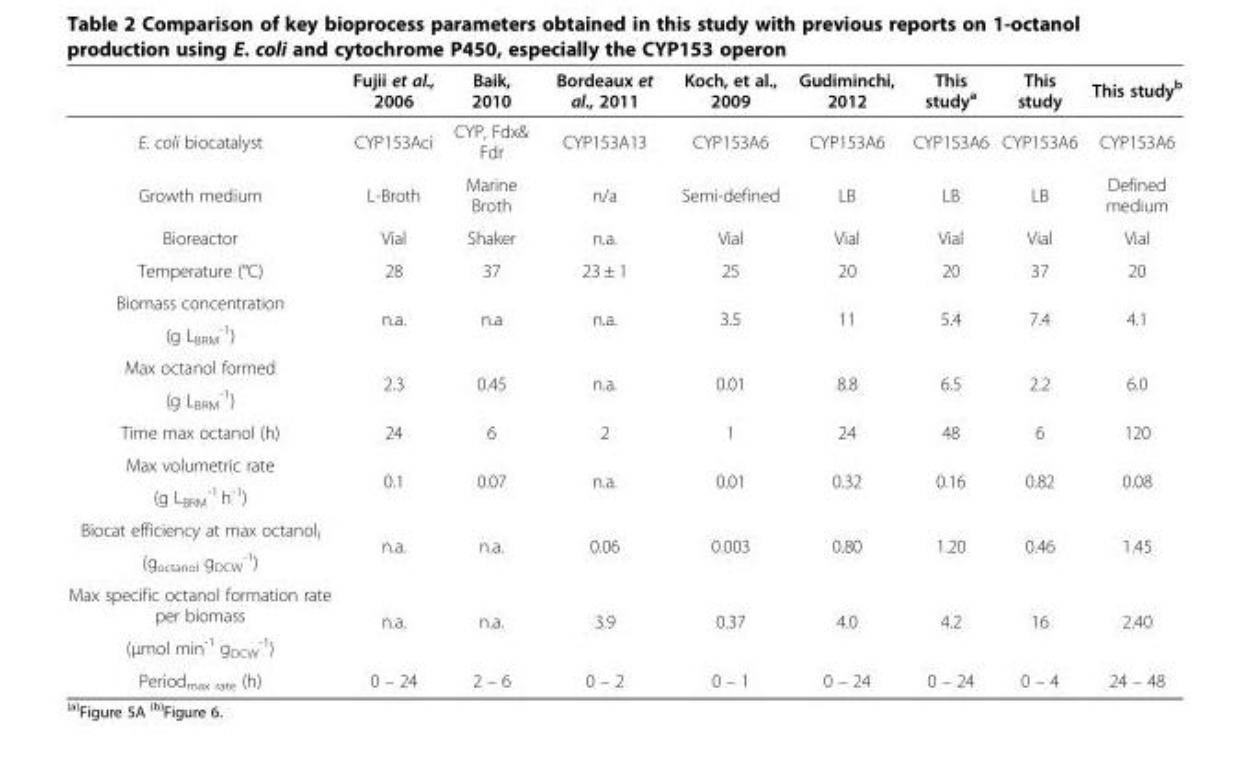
<table><thead><tr><td></td><td>Fujii et al., 2006</td><td>Baik, 2010</td><td>Bordeaux et al., 2011</td><td>Koch, et al., 2009</td><td>Gudiminchi, 2012</td><td>This study<sup>a</sup></td><td>This study</td><td>This study<sup>b</sup></td></tr></thead><tbody><tr><td>E. coli biocatalyst</td><td>CYP153Aci</td><td>CYP, Fdx&amp; Fdr</td><td>CYP153A13</td><td>CYP153A6</td><td>CYP153A6</td><td>CYP153A6</td><td>CYP153A6</td><td>CYP153A6</td></tr><tr><td>Growth medium</td><td>L-Broth</td><td>Marine Broth</td><td>n/a</td><td>Semi-defined</td><td>LB</td><td>LB</td><td>LB</td><td>Defined medium</td></tr><tr><td>Bioreactor</td><td>Vial</td><td>Shaker</td><td>n.a.</td><td>Vial</td><td>Vial</td><td>Vial</td><td>Vial</td><td>Vial</td></tr><tr><td>Temperature (°C)</td><td>28</td><td>37</td><td>23 ± 1</td><td>25</td><td>20</td><td>20</td><td>37</td><td>20</td></tr><tr><td>Biomass concentration</td><td rowspan="2">n.a.</td><td rowspan="2">n.a</td><td rowspan="2">n.a.</td><td rowspan="2">3.5</td><td rowspan="2">11</td><td rowspan="2">5.4</td><td rowspan="2">7.4</td><td rowspan="2">4.1</td></tr><tr><td>(g L<sub>BRM</sub> <sup>-1</sup>)</td></tr><tr><td>Max octanol formed</td><td rowspan="2">2.3</td><td rowspan="2">0.45</td><td rowspan="2">n.a.</td><td rowspan="2">0.01</td><td rowspan="2">8.8</td><td rowspan="2">6.5</td><td rowspan="2">2.2</td><td rowspan="2">6.0</td></tr><tr><td>(g L<sub>BRM</sub> <sup>-1</sup>)</td></tr><tr><td>Time max octanol (h)</td><td>24</td><td>6</td><td>2</td><td>1</td><td>24</td><td>48</td><td>6</td><td>120</td></tr><tr><td>Max volumetric rate</td><td rowspan="2">0.1</td><td rowspan="2">0.07</td><td rowspan="2">n.a.</td><td rowspan="2">0.01</td><td rowspan="2">0.32</td><td rowspan="2">0.16</td><td rowspan="2">0.82</td><td rowspan="2">0.08</td></tr><tr><td>(g L<sub>BRM</sub> <sup>-1</sup> h<sup>-1</sup>)</td></tr><tr><td>Biocat efficiency at max octanol<sub>l</sub></td><td rowspan="2">n.a.</td><td rowspan="2">n.a.</td><td rowspan="2">0.06</td><td rowspan="2">0.003</td><td rowspan="2">0.80</td><td rowspan="2">1.20</td><td rowspan="2">0.46</td><td rowspan="2">1.45</td></tr><tr><td>(g<sub>octanol</sub> g<sub>DCW</sub> <sup>-1</sup>)</td></tr><tr><td>Max specific octanol formation rate per biomass</td><td rowspan="2">n.a.</td><td rowspan="2">n.a.</td><td rowspan="2">3.9</td><td rowspan="2">0.37</td><td rowspan="2">4.0</td><td rowspan="2">4.2</td><td rowspan="2">16</td><td rowspan="2">2.40</td></tr><tr><td>(μmol min<sup>-1</sup> g<sub>DCW</sub> <sup>-1</sup>)</td></tr><tr><td>Period<sub>max rate</sub> (h)</td><td>0 – 24</td><td>2 – 6</td><td>0 – 2</td><td>0 – 1</td><td>0 – 24</td><td>0 – 24</td><td>0 – 4</td><td>24 – 48</td></tr></tbody></table>